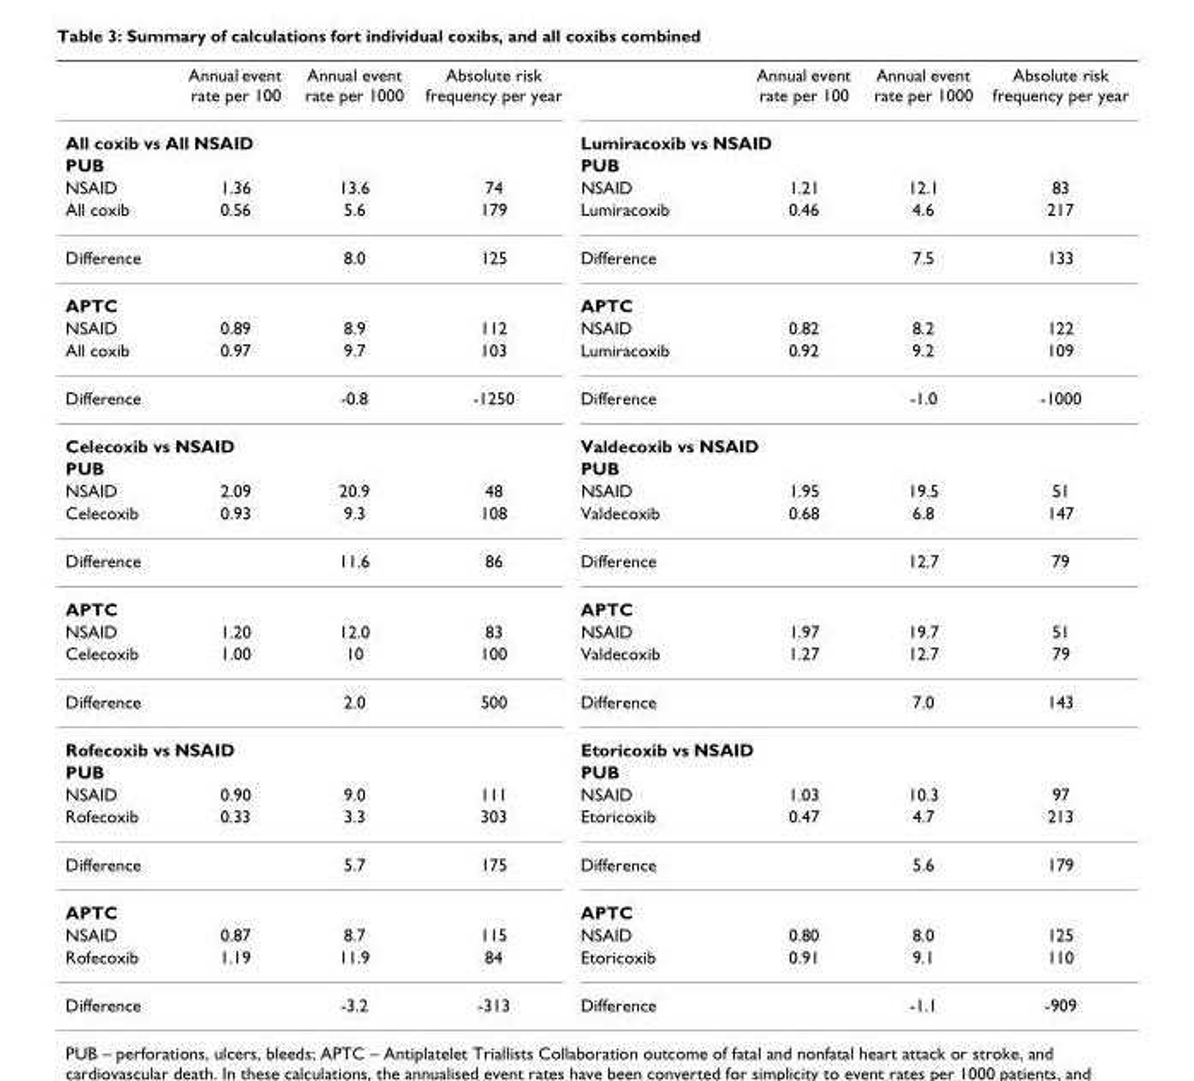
<table><thead><tr><td></td><td>Annual event rate per 100</td><td>Annual event rate per 1000</td><td>Absolute risk frequency per year</td><td></td><td>Annual event rate per 100</td><td>Annual event rate per 1000</td><td>Absolute risk frequency per year</td></tr></thead><tbody><tr><td colspan="4">All coxib vs All NSAID</td><td colspan="4">Lumiracoxib vs NSAID</td></tr><tr><td>PUB</td><td></td><td></td><td></td><td>PUB</td><td></td><td></td><td></td></tr><tr><td>NSAID</td><td>1.36</td><td>13.6</td><td>74</td><td>NSAID</td><td>1.21</td><td>12.1</td><td>83</td></tr><tr><td>All coxib</td><td>0.56</td><td>5.6</td><td>179</td><td>Lumiracoxib</td><td>0.46</td><td>4.6</td><td>217</td></tr><tr><td>Difference</td><td></td><td>8.0</td><td>125</td><td>Difference</td><td></td><td>7.5</td><td>133</td></tr><tr><td>APTC</td><td></td><td></td><td></td><td>APTC</td><td></td><td></td><td></td></tr><tr><td>NSAID</td><td>0.89</td><td>8.9</td><td>112</td><td>NSAID</td><td>0.82</td><td>8.2</td><td>122</td></tr><tr><td>All coxib</td><td>0.97</td><td>9.7</td><td>103</td><td>Lumiracoxib</td><td>0.92</td><td>9.2</td><td>109</td></tr><tr><td>Difference</td><td></td><td>-0.8</td><td>-1250</td><td>Difference</td><td></td><td>-1.0</td><td>-1000</td></tr><tr><td colspan="4">Celecoxib vs NSAID</td><td colspan="4">Valdecoxib vs NSAID</td></tr><tr><td>PUB</td><td></td><td></td><td></td><td>PUB</td><td></td><td></td><td></td></tr><tr><td>NSAID</td><td>2.09</td><td>20.9</td><td>48</td><td>NSAID</td><td>1.95</td><td>19.5</td><td>51</td></tr><tr><td>Celecoxib</td><td>0.93</td><td>9.3</td><td>108</td><td>Valdecoxib</td><td>0.68</td><td>6.8</td><td>147</td></tr><tr><td>Difference</td><td></td><td>11.6</td><td>86</td><td>Difference</td><td></td><td>12.7</td><td>79</td></tr><tr><td>APTC</td><td></td><td></td><td></td><td>APTC</td><td></td><td></td><td></td></tr><tr><td>NSAID</td><td>1.20</td><td>12.0</td><td>83</td><td>NSAID</td><td>1.97</td><td>19.7</td><td>51</td></tr><tr><td>Celecoxib</td><td>1.00</td><td>10</td><td>100</td><td>Valdecoxib</td><td>1.27</td><td>12.7</td><td>79</td></tr><tr><td>Difference</td><td></td><td>2.0</td><td>500</td><td>Difference</td><td></td><td>7.0</td><td>143</td></tr><tr><td colspan="4">Rofecoxib vs NSAID</td><td colspan="4">Etoricoxib vs NSAID</td></tr><tr><td>PUB</td><td></td><td></td><td></td><td>PUB</td><td></td><td></td><td></td></tr><tr><td>NSAID</td><td>0.90</td><td>9.0</td><td>111</td><td>NSAID</td><td>1.03</td><td>10.3</td><td>97</td></tr><tr><td>Rofecoxib</td><td>0.33</td><td>3.3</td><td>303</td><td>Etoricoxib</td><td>0.47</td><td>4.7</td><td>213</td></tr><tr><td>Difference</td><td></td><td>5.7</td><td>175</td><td>Difference</td><td></td><td>5.6</td><td>179</td></tr><tr><td>APTC</td><td></td><td></td><td></td><td>APTC</td><td></td><td></td><td></td></tr><tr><td>NSAID</td><td>0.87</td><td>8.7</td><td>115</td><td>NSAID</td><td>0.80</td><td>8.0</td><td>125</td></tr><tr><td>Rofecoxib</td><td>1.19</td><td>11.9</td><td>84</td><td>Etoricoxib</td><td>0.91</td><td>9.1</td><td>110</td></tr><tr><td>Difference</td><td></td><td>-3.2</td><td>-313</td><td>Difference</td><td></td><td>-1.1</td><td>-909</td></tr></tbody></table>